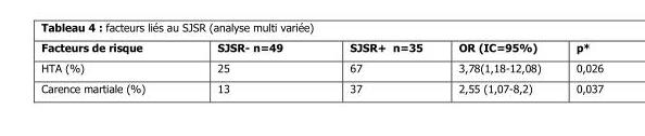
<table><thead><tr><td>Facteurs de risque</td><td>SJSR- n=49</td><td>SJSR+ n=35</td><td>OR (IC=95%)</td><td>p*</td></tr></thead><tbody><tr><td>HTA (%)</td><td>25</td><td>67</td><td>3,78(1,18-12,08)</td><td>0,026</td></tr><tr><td>Carence martiale (%)</td><td>13</td><td>37</td><td>2,55 (1,07-8,2)</td><td>0,037</td></tr></tbody></table>